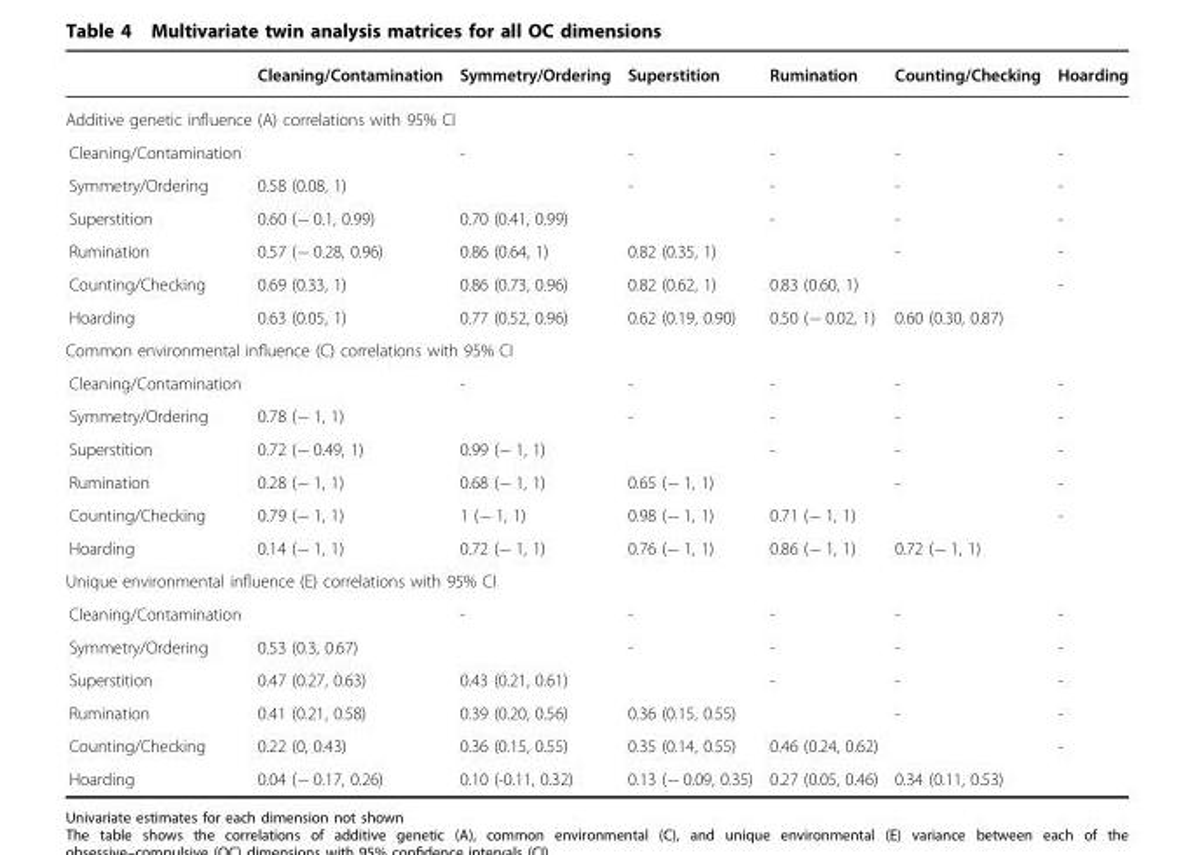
<table><thead><tr><td></td><td>Cleaning/Contamination</td><td>Symmetry/Ordering</td><td>Superstition</td><td>Rumination</td><td>Counting/Checking</td><td>Hoarding</td></tr></thead><tbody><tr><td colspan="7">Additive genetic influence (A) correlations with 95% CI</td></tr><tr><td>Cleaning/Contamination</td><td></td><td>-</td><td>-</td><td>-</td><td>-</td><td>-</td></tr><tr><td>Symmetry/Ordering</td><td>0.58 (0.08, 1)</td><td></td><td>-</td><td>-</td><td>-</td><td>-</td></tr><tr><td>Superstition</td><td>0.60 (− 0.1, 0.99)</td><td>0.70 (0.41, 0.99)</td><td></td><td>-</td><td>-</td><td>-</td></tr><tr><td>Rumination</td><td>0.57 (− 0.28, 0.96)</td><td>0.86 (0.64, 1)</td><td>0.82 (0.35, 1)</td><td></td><td>-</td><td>-</td></tr><tr><td>Counting/Checking</td><td>0.69 (0.33, 1)</td><td>0.86 (0.73, 0.96)</td><td>0.82 (0.62, 1)</td><td>0.83 (0.60, 1)</td><td></td><td>-</td></tr><tr><td>Hoarding</td><td>0.63 (0.05, 1)</td><td>0.77 (0.52, 0.96)</td><td>0.62 (0.19, 0.90)</td><td>0.50 (− 0.02, 1)</td><td>0.60 (0.30, 0.87)</td><td></td></tr><tr><td colspan="7">Common environmental influence (C) correlations with 95% CI</td></tr><tr><td>Cleaning/Contamination</td><td></td><td>-</td><td>-</td><td>-</td><td>-</td><td>-</td></tr><tr><td>Symmetry/Ordering</td><td>0.78 (− 1, 1)</td><td></td><td>-</td><td>-</td><td>-</td><td>-</td></tr><tr><td>Superstition</td><td>0.72 (− 0.49, 1)</td><td>0.99 (− 1, 1)</td><td></td><td>-</td><td>-</td><td>-</td></tr><tr><td>Rumination</td><td>0.28 (− 1, 1)</td><td>0.68 (− 1, 1)</td><td>0.65 (− 1, 1)</td><td></td><td>-</td><td>-</td></tr><tr><td>Counting/Checking</td><td>0.79 (− 1, 1)</td><td>1 (− 1, 1)</td><td>0.98 (− 1, 1)</td><td>0.71 (− 1, 1)</td><td></td><td>-</td></tr><tr><td>Hoarding</td><td>0.14 (− 1, 1)</td><td>0.72 (− 1, 1)</td><td>0.76 (− 1, 1)</td><td>0.86 (− 1, 1)</td><td>0.72 (− 1, 1)</td><td></td></tr><tr><td colspan="7">Unique environmental influence (E) correlations with 95% CI</td></tr><tr><td>Cleaning/Contamination</td><td></td><td>-</td><td>-</td><td>-</td><td>-</td><td>-</td></tr><tr><td>Symmetry/Ordering</td><td>0.53 (0.3, 0.67)</td><td></td><td>-</td><td>-</td><td>-</td><td>-</td></tr><tr><td>Superstition</td><td>0.47 (0.27, 0.63)</td><td>0.43 (0.21, 0.61)</td><td></td><td>-</td><td>-</td><td>-</td></tr><tr><td>Rumination</td><td>0.41 (0.21, 0.58)</td><td>0.39 (0.20, 0.56)</td><td>0.36 (0.15, 0.55)</td><td></td><td>-</td><td>-</td></tr><tr><td>Counting/Checking</td><td>0.22 (0, 0.43)</td><td>0.36 (0.15, 0.55)</td><td>0.35 (0.14, 0.55)</td><td>0.46 (0.24, 0.62)</td><td></td><td>-</td></tr><tr><td>Hoarding</td><td>0.04 (− 0.17, 0.26)</td><td>0.10 (-0.11, 0.32)</td><td>0.13 (− 0.09, 0.35)</td><td>0.27 (0.05, 0.46)</td><td>0.34 (0.11, 0.53)</td><td></td></tr></tbody></table>